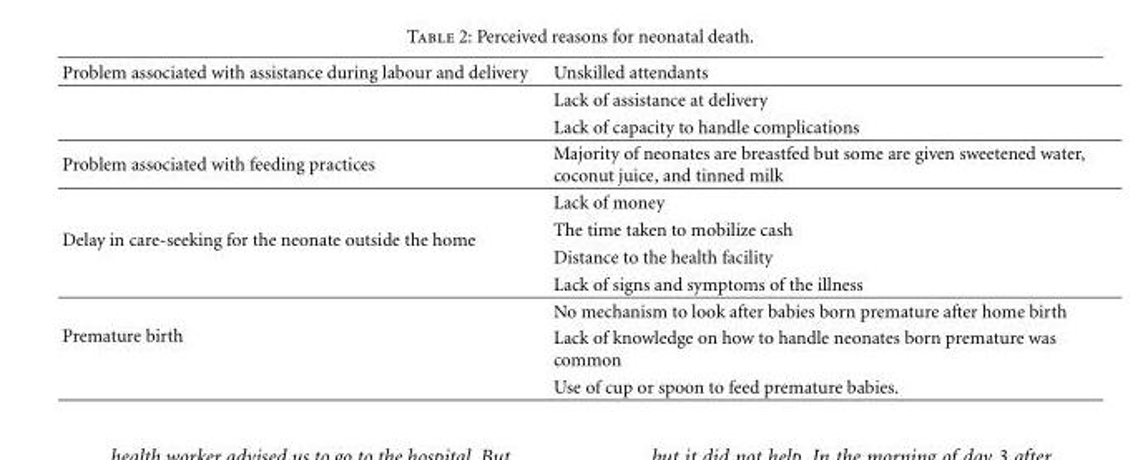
<table><tbody><tr><td rowspan="3">Problem associated with assistance during labour and delivery</td><td>Unskilled attendants</td></tr><tr><td>Lack of assistance at delivery</td></tr><tr><td>Lack of capacity to handle complications</td></tr><tr><td>Problem associated with feeding practices</td><td>Majority of neonates are breastfed but some are given sweetened water, coconut juice, and tinned milk</td></tr><tr><td rowspan="4">Delay in care-seeking for the neonate outside the home</td><td>Lack of money</td></tr><tr><td>The time taken to mobilize cash</td></tr><tr><td>Distance to the health facility</td></tr><tr><td>Lack of signs and symptoms of the illness</td></tr><tr><td rowspan="3">Premature birth</td><td>No mechanism to look after babies born premature after home birth</td></tr><tr><td>Lack of knowledge on how to handle neonates born premature was common</td></tr><tr><td>Use of cup or spoon to feed premature babies.</td></tr></tbody></table>